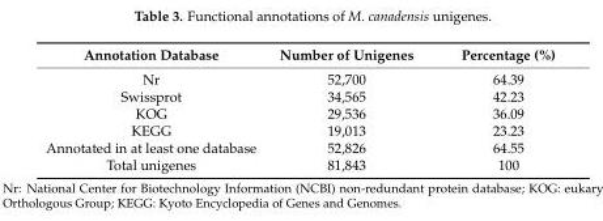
<table><thead><tr><td>Annotation Database</td><td>Number of Unigenes</td><td>Percentage (%)</td></tr></thead><tbody><tr><td>Nr</td><td>52,700</td><td>64.39</td></tr><tr><td>Swissprot</td><td>34,565</td><td>42.23</td></tr><tr><td>KOG</td><td>29,536</td><td>36.09</td></tr><tr><td>KEGG</td><td>19,013</td><td>23.23</td></tr><tr><td>Annotated in at least one database</td><td>52,826</td><td>64.55</td></tr><tr><td>Total unigenes</td><td>81,843</td><td>100</td></tr></tbody></table>